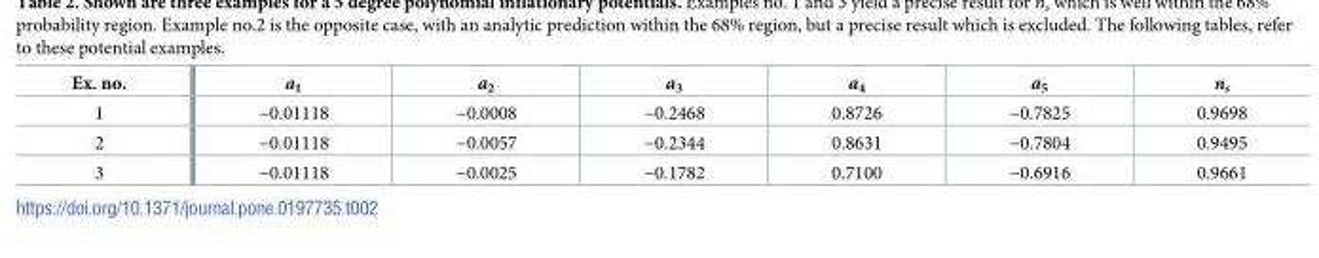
<table><thead><tr><td>Ex. no.</td><td>a<sub>1</sub></td><td>a<sub>2</sub></td><td>a<sub>3</sub></td><td>a<sub>4</sub></td><td>a<sub>5</sub></td><td>n<sub>s</sub></td></tr></thead><tbody><tr><td>1</td><td>−0.01118</td><td>−0.0008</td><td>−0.2468</td><td>0.8726</td><td>−0.7825</td><td>0.9698</td></tr><tr><td>2</td><td>−0.01118</td><td>−0.0057</td><td>−0.2344</td><td>0.8631</td><td>−0.7804</td><td>0.9495</td></tr><tr><td>3</td><td>−0.01118</td><td>−0.0025</td><td>−0.1782</td><td>0.7100</td><td>−0.6916</td><td>0.9661</td></tr></tbody></table>